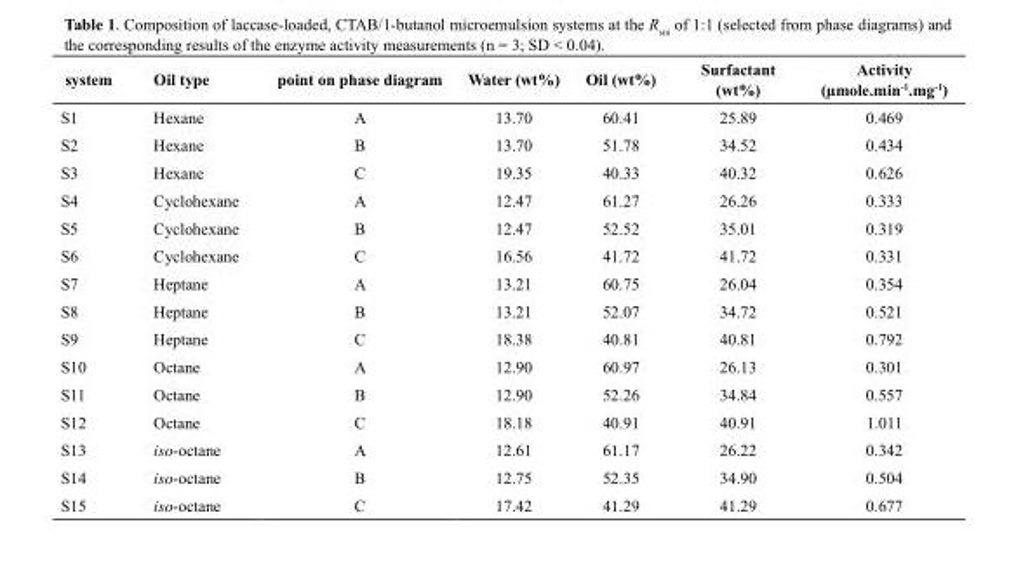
<table><thead><tr><td>Activity (μmole.min<sup>-1</sup>.mg<sup>-1</sup>)</td><td>Surfactant (wt%)</td><td>Oil (wt%)</td><td>Water (wt%)</td><td>point on phase diagram</td><td>Oil type</td><td>system</td></tr></thead><tbody><tr><td>0.469</td><td>25.89</td><td>60.41</td><td>13.70</td><td>A</td><td>Hexane</td><td>S1</td></tr><tr><td>0.434</td><td>34.52</td><td>51.78</td><td>13.70</td><td>B</td><td>Hexane</td><td>S2</td></tr><tr><td>0.626</td><td>40.32</td><td>40.33</td><td>19.35</td><td>C</td><td>Hexane</td><td>S3</td></tr><tr><td>0.333</td><td>26.26</td><td>61.27</td><td>12.47</td><td>A</td><td>Cyclohexane</td><td>S4</td></tr><tr><td>0.319</td><td>35.01</td><td>52.52</td><td>12.47</td><td>B</td><td>Cyclohexane</td><td>S5</td></tr><tr><td>0.331</td><td>41.72</td><td>41.72</td><td>16.56</td><td>C</td><td>Cyclohexane</td><td>S6</td></tr><tr><td>0.354</td><td>26.04</td><td>60.75</td><td>13.21</td><td>A</td><td>Heptane</td><td>S7</td></tr><tr><td>0.521</td><td>34.72</td><td>52.07</td><td>13.21</td><td>B</td><td>Heptane</td><td>S8</td></tr><tr><td>0.792</td><td>40.81</td><td>40.81</td><td>18.38</td><td>C</td><td>Heptane</td><td>S9</td></tr><tr><td>0.301</td><td>26.13</td><td>60.97</td><td>12.90</td><td>A</td><td>Octane</td><td>S10</td></tr><tr><td>0.557</td><td>34.84</td><td>52.26</td><td>12.90</td><td>B</td><td>Octane</td><td>S11</td></tr><tr><td>1.011</td><td>40.91</td><td>40.91</td><td>18.18</td><td>C</td><td>Octane</td><td>S12</td></tr><tr><td>0.342</td><td>26.22</td><td>61.17</td><td>12.61</td><td>A</td><td>iso-octane</td><td>S13</td></tr><tr><td>0.504</td><td>34.90</td><td>52.35</td><td>12.75</td><td>B</td><td>iso-octane</td><td>S14</td></tr><tr><td>0.677</td><td>41.29</td><td>41.29</td><td>17.42</td><td>C</td><td>iso-octane</td><td>S15</td></tr></tbody></table>